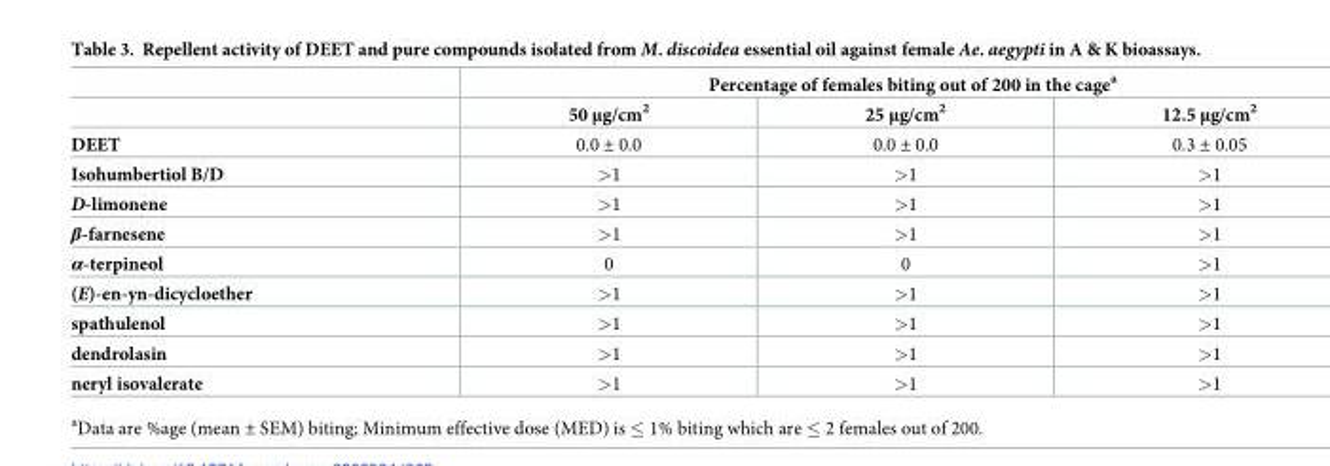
<table><thead><tr><td rowspan="2"></td><td colspan="3">Percentage of females biting out of 200 in the cage<sup>a</sup></td></tr><tr><td>50 μg/cm<sup>2</sup></td><td>25 μg/cm<sup>2</sup></td><td>12.5 μg/cm<sup>2</sup></td></tr></thead><tbody><tr><td>DEET</td><td>0.0 ± 0.0</td><td>0.0 ± 0.0</td><td>0.3 ± 0.05</td></tr><tr><td>Isohumbertiol B/D</td><td>&gt;1</td><td>&gt;1</td><td>&gt;1</td></tr><tr><td>D-limonene</td><td>&gt;1</td><td>&gt;1</td><td>&gt;1</td></tr><tr><td>β-farnesene</td><td>&gt;1</td><td>&gt;1</td><td>&gt;1</td></tr><tr><td>α-terpineol</td><td>0</td><td>0</td><td>&gt;1</td></tr><tr><td>(E)-en-yn-dicycloether</td><td>&gt;1</td><td>&gt;1</td><td>&gt;1</td></tr><tr><td>spathulenol</td><td>&gt;1</td><td>&gt;1</td><td>&gt;1</td></tr><tr><td>dendrolasin</td><td>&gt;1</td><td>&gt;1</td><td>&gt;1</td></tr><tr><td>neryl isovalerate</td><td>&gt;1</td><td>&gt;1</td><td>&gt;1</td></tr></tbody></table>